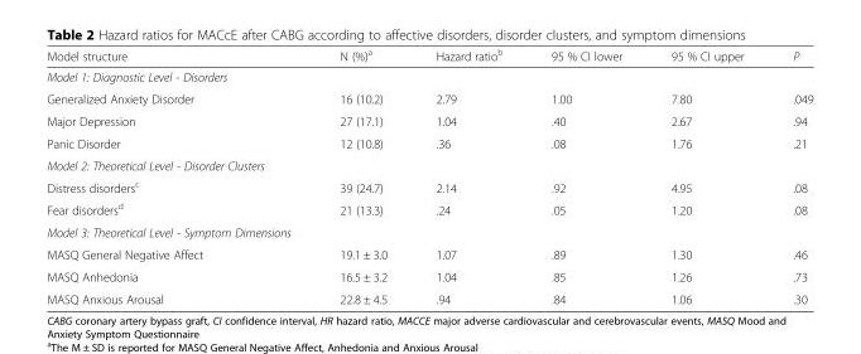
<table><thead><tr><td>Model structure</td><td>N (%)<sup>a</sup></td><td>Hazard ratio<sup>b</sup></td><td>95 % CI lower</td><td>95 % CI upper</td><td>P</td></tr></thead><tbody><tr><td colspan="6">Model 1: Diagnostic Level - Disorders</td></tr><tr><td>Generalized Anxiety Disorder</td><td>16 (10.2)</td><td>2.79</td><td>1.00</td><td>7.80</td><td>.049</td></tr><tr><td>Major Depression</td><td>27 (17.1)</td><td>1.04</td><td>.40</td><td>2.67</td><td>.94</td></tr><tr><td>Panic Disorder</td><td>12 (10.8)</td><td>.36</td><td>.08</td><td>1.76</td><td>.21</td></tr><tr><td colspan="6">Model 2: Theoretical Level - Disorder Clusters</td></tr><tr><td>Distress disorders<sup>c</sup></td><td>39 (24.7)</td><td>2.14</td><td>.92</td><td>4.95</td><td>.08</td></tr><tr><td>Fear disorders<sup>d</sup></td><td>21 (13.3)</td><td>.24</td><td>.05</td><td>1.20</td><td>.08</td></tr><tr><td colspan="6">Model 3: Theoretical Level - Symptom Dimensions</td></tr><tr><td>MASQ General Negative Affect</td><td>19.1 ± 3.0</td><td>1.07</td><td>.89</td><td>1.30</td><td>.46</td></tr><tr><td>MASQ Anhedonia</td><td>16.5 ± 3.2</td><td>1.04</td><td>.85</td><td>1.26</td><td>.73</td></tr><tr><td>MASQ Anxious Arousal</td><td>22.8 ± 4.5</td><td>.94</td><td>.84</td><td>1.06</td><td>.30</td></tr></tbody></table>